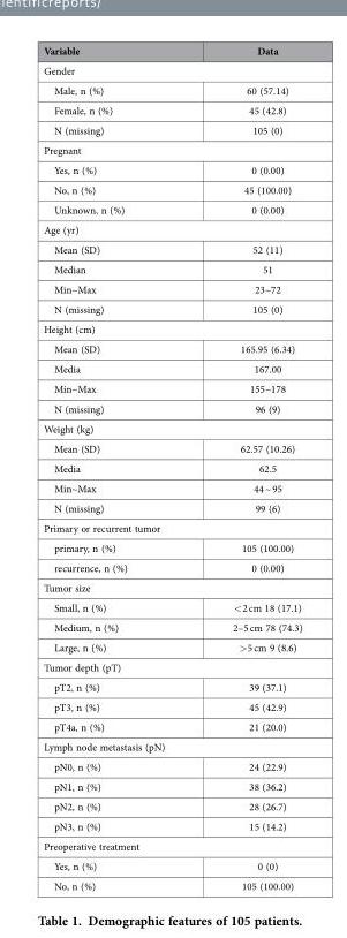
<table><thead><tr><td>Variable</td><td>Data</td></tr></thead><tbody><tr><td colspan="2">Gender</td></tr><tr><td>Male, n (%)</td><td>60 (57.14)</td></tr><tr><td>Female, n (%)</td><td>45 (42.8)</td></tr><tr><td>N (missing)</td><td>105 (0)</td></tr><tr><td colspan="2">Pregnant</td></tr><tr><td>Yes, n (%)</td><td>0 (0.00)</td></tr><tr><td>No, n (%)</td><td>45 (100.00)</td></tr><tr><td>Unknown, n (%)</td><td>0 (0.00)</td></tr><tr><td colspan="2">Age (yr)</td></tr><tr><td>Mean (SD)</td><td>52 (11)</td></tr><tr><td>Median</td><td>51</td></tr><tr><td>Min~Max</td><td>23~72</td></tr><tr><td>N (missing)</td><td>105 (0)</td></tr><tr><td colspan="2">Height (cm)</td></tr><tr><td>Mean (SD)</td><td>165.95 (6.34)</td></tr><tr><td>Media</td><td>167.00</td></tr><tr><td>Min~Max</td><td>155~178</td></tr><tr><td>N (missing)</td><td>96 (9)</td></tr><tr><td colspan="2">Weight (kg)</td></tr><tr><td>Mean (SD)</td><td>62.57 (10.26)</td></tr><tr><td>Media</td><td>62.5</td></tr><tr><td>Min~Max</td><td>44 ~ 95</td></tr><tr><td>N (missing)</td><td>99 (6)</td></tr><tr><td colspan="2">Primary or recurrent tumor</td></tr><tr><td>primary, n (%)</td><td>105 (100.00)</td></tr><tr><td>recurrence, n (%)</td><td>0 (0.00)</td></tr><tr><td colspan="2">Tumor size</td></tr><tr><td>Small, n (%)</td><td>&lt; 2 cm 18 (17.1)</td></tr><tr><td>Medium, n (%)</td><td>2–5 cm 78 (74.3)</td></tr><tr><td>Large, n (%)</td><td>&gt; 5 cm 9 (8.6)</td></tr><tr><td colspan="2">Tumor depth (pT)</td></tr><tr><td>pT2, n (%)</td><td>39 (37.1)</td></tr><tr><td>pT3, n (%)</td><td>45 (42.9)</td></tr><tr><td>pT4a, n (%)</td><td>21 (20.0)</td></tr><tr><td colspan="2">Lymph node metastasis (pN)</td></tr><tr><td>pN0, n (%)</td><td>24 (22.9)</td></tr><tr><td>pN1, n (%)</td><td>38 (36.2)</td></tr><tr><td>pN2, n (%)</td><td>28 (26.7)</td></tr><tr><td>pN3, n (%)</td><td>15 (14.2)</td></tr><tr><td colspan="2">Preoperative treatment</td></tr><tr><td>Yes, n (%)</td><td>0 (0)</td></tr><tr><td>No, n (%)</td><td>105 (100.00)</td></tr></tbody></table>